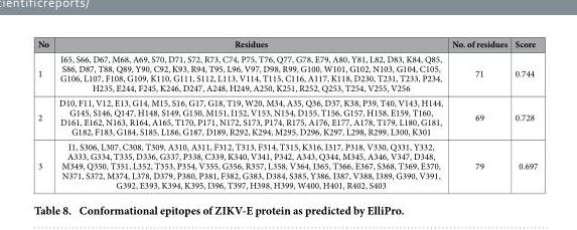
<table><thead><tr><td>No</td><td>Residues</td><td>No. of residues</td><td>Score</td></tr></thead><tbody><tr><td>1</td><td>I65, S66, D67, M68, A69, S70, D71, S72, R73, C74, P75, T76, Q77, G78, E79, A80, Y81, L82, D83, K84, Q85, S86, D87, T88, Q89, Y90, C92, K93, R94, T95, L96, V97, D98, R99, G100, W101, G102, N103, G104, C105, G106, L107, F108, G109, K110, G111, S112, L113, V114, T115, C116, A117, K118, D230, T231, T233, P234, H235, E244, F245, K246, D247, A248, H249, A250, K251, R252, Q253, T254, V255, V256</td><td>71</td><td>0.744</td></tr><tr><td>2</td><td>D10, F11, V12, E13, G14, M15, S16, G17, G18, T19, W20, M34, A35, Q36, D37, K38, P39, T40, V143, H144, G145, S146, Q147, H148, S149, G150, M151, I152, V153, N154, D155, T156, G157, H158, E159, T160, D161, E162, N163, R164, A165, T170, P171, N172, S173, P174, R175, A176, E177, A178, T179, L180, G181, G182, F183, G184, S185, L186, G187, D189, R292, K294, M295, D296, K297, L298, R299, L300, K301</td><td>69</td><td>0.728</td></tr><tr><td>3</td><td>I1, S306, L307, C308, T309, A310, A311, F312, T313, F314, T315, K316, I317, P318, V330, Q331, Y332, A333, G334, T335, D336, G337, P338, C339, K340, V341, P342, A343, Q344, M345, A346, V347, D348, M349, Q350, T351, L352, T353, P354, V355, G356, R357, L358, V364, I365, T366, E367, S368, T369, E370, N371, S372, M374, L378, D379, P380, P381, F382, G383, D384, S385, Y386, I387, V388, I389, G390, V391, G392, E393, K394, K395, I396, T397, H398, H399, W400, H401, R402, S403</td><td>79</td><td>0.697</td></tr></tbody></table>